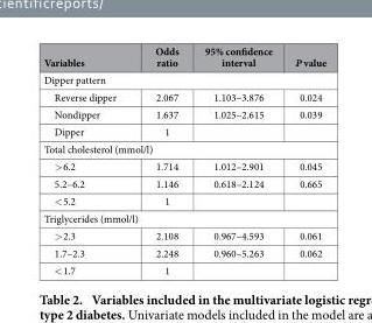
<table><thead><tr><td>Variables</td><td>Odds ratio</td><td>95% confidence interval</td><td>P value</td></tr></thead><tbody><tr><td colspan="4">Dipper pattern</td></tr><tr><td>Reverse dipper</td><td>2.067</td><td>1.103–3.876</td><td>0.024</td></tr><tr><td>Nondipper</td><td>1.637</td><td>1.025–2.615</td><td>0.039</td></tr><tr><td>Dipper</td><td>1</td><td></td><td></td></tr><tr><td colspan="4">Total cholesterol (mmol/l)</td></tr><tr><td>&gt; 6.2</td><td>1.714</td><td>1.012–2.901</td><td>0.045</td></tr><tr><td>5.2–6.2</td><td>1.146</td><td>0.618–2.124</td><td>0.665</td></tr><tr><td>&lt; 5.2</td><td>1</td><td></td><td></td></tr><tr><td colspan="4">Triglycerides (mmol/l)</td></tr><tr><td>&gt; 2.3</td><td>2.108</td><td>0.967–4.593</td><td>0.061</td></tr><tr><td>1.7–2.3</td><td>2.248</td><td>0.960–5.263</td><td>0.062</td></tr><tr><td>&lt; 1.7</td><td>1</td><td></td><td></td></tr></tbody></table>